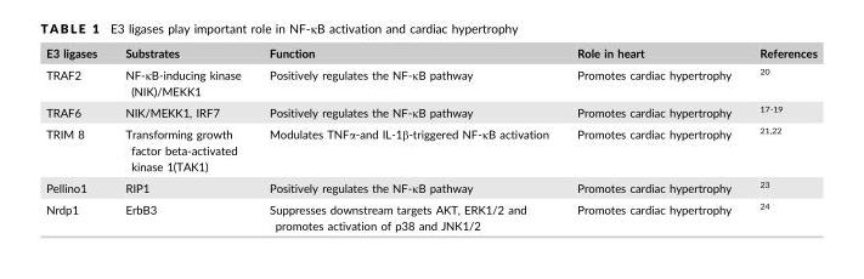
<table><thead><tr><td>E3 ligases</td><td>Substrates</td><td>Function</td><td>Role in heart</td><td>References</td></tr></thead><tbody><tr><td>TRAF2</td><td>NF-κB-inducing kinase (NIK)/MEKK1</td><td>Positively regulates the NF-κB pathway</td><td>Promotes cardiac hypertrophy</td><td>20</td></tr><tr><td>TRAF6</td><td>NIK/MEKK1, IRF7</td><td>Positively regulates the NF-κB pathway</td><td>Promotes cardiac hypertrophy</td><td>17-19</td></tr><tr><td>TRIM 8</td><td>Transforming growth factor beta-activated kinase 1(TAK1)</td><td>Modulates TNFα-and IL-1β-triggered NF-κB activation</td><td>Promotes cardiac hypertrophy</td><td>21,22</td></tr><tr><td>Pellino1</td><td>RIP1</td><td>Positively regulates the NF-κB pathway</td><td>Promotes cardiac hypertrophy</td><td>23</td></tr><tr><td>Nrdp1</td><td>ErbB3</td><td>Suppresses downstream targets AKT, ERK1/2 and promotes activation of p38 and JNK1/2</td><td>Promotes cardiac hypertrophy</td><td>24</td></tr></tbody></table>